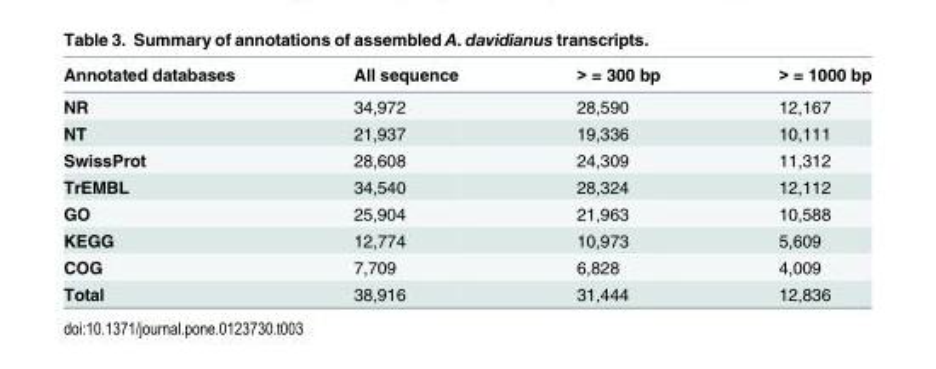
<table><thead><tr><td>Annotated databases</td><td>All sequence</td><td>&gt; = 300 bp</td><td>&gt; = 1000 bp</td></tr></thead><tbody><tr><td>NR</td><td>34,972</td><td>28,590</td><td>12,167</td></tr><tr><td>NT</td><td>21,937</td><td>19,336</td><td>10,111</td></tr><tr><td>SwissProt</td><td>28,608</td><td>24,309</td><td>11,312</td></tr><tr><td>TrEMBL</td><td>34,540</td><td>28,324</td><td>12,112</td></tr><tr><td>GO</td><td>25,904</td><td>21,963</td><td>10,588</td></tr><tr><td>KEGG</td><td>12,774</td><td>10,973</td><td>5,609</td></tr><tr><td>COG</td><td>7,709</td><td>6,828</td><td>4,009</td></tr><tr><td>Total</td><td>38,916</td><td>31,444</td><td>12,836</td></tr></tbody></table>